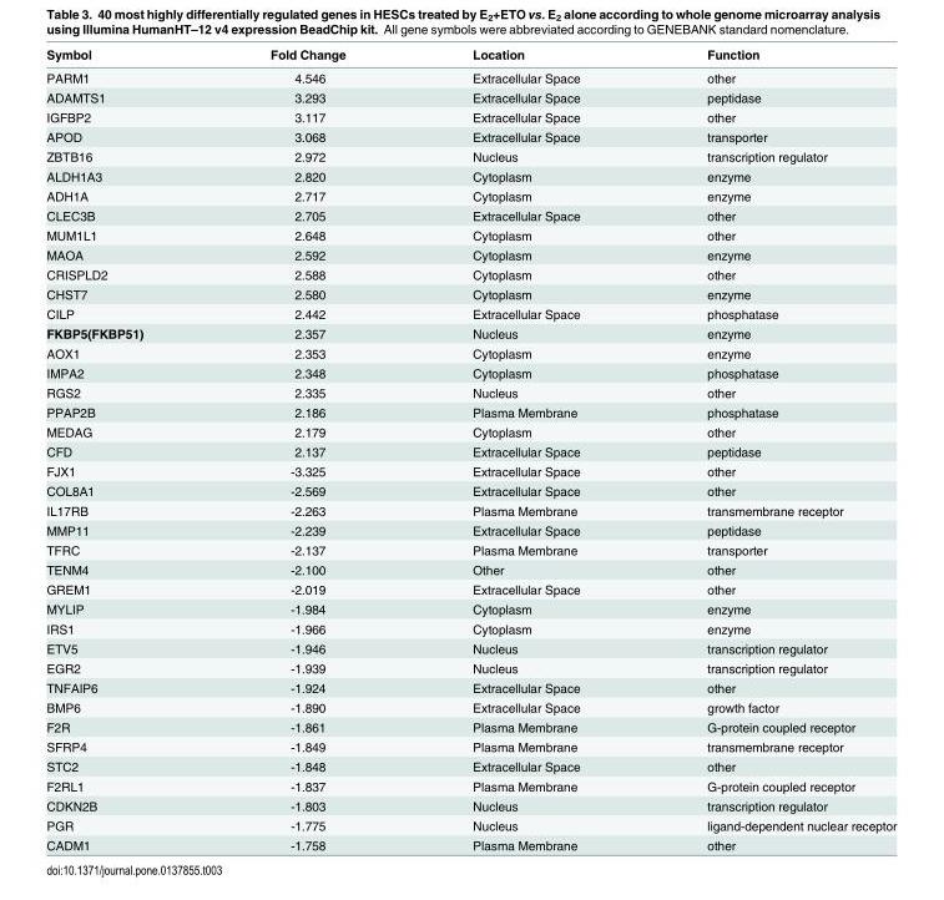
<table><thead><tr><td>Symbol</td><td>Fold Change</td><td>Location</td><td>Function</td></tr></thead><tbody><tr><td>PARM1</td><td>4.546</td><td>Extracellular Space</td><td>other</td></tr><tr><td>ADAMTS1</td><td>3.293</td><td>Extracellular Space</td><td>peptidase</td></tr><tr><td>IGFBP2</td><td>3.117</td><td>Extracellular Space</td><td>other</td></tr><tr><td>APOD</td><td>3.068</td><td>Extracellular Space</td><td>transporter</td></tr><tr><td>ZBTB16</td><td>2.972</td><td>Nucleus</td><td>transcription regulator</td></tr><tr><td>ALDH1A3</td><td>2.820</td><td>Cytoplasm</td><td>enzyme</td></tr><tr><td>ADH1A</td><td>2.717</td><td>Cytoplasm</td><td>enzyme</td></tr><tr><td>CLEC3B</td><td>2.705</td><td>Extracellular Space</td><td>other</td></tr><tr><td>MUM1L1</td><td>2.648</td><td>Cytoplasm</td><td>other</td></tr><tr><td>MAOA</td><td>2.592</td><td>Cytoplasm</td><td>enzyme</td></tr><tr><td>CRISPLD2</td><td>2.588</td><td>Cytoplasm</td><td>other</td></tr><tr><td>CHST7</td><td>2.580</td><td>Cytoplasm</td><td>enzyme</td></tr><tr><td>CILP</td><td>2.442</td><td>Extracellular Space</td><td>phosphatase</td></tr><tr><td>FKBP5(FKBP51)</td><td>2.357</td><td>Nucleus</td><td>enzyme</td></tr><tr><td>AOX1</td><td>2.353</td><td>Cytoplasm</td><td>enzyme</td></tr><tr><td>IMPA2</td><td>2.348</td><td>Cytoplasm</td><td>phosphatase</td></tr><tr><td>RGS2</td><td>2.335</td><td>Nucleus</td><td>other</td></tr><tr><td>PPAP2B</td><td>2.186</td><td>Plasma Membrane</td><td>phosphatase</td></tr><tr><td>MEDAG</td><td>2.179</td><td>Cytoplasm</td><td>other</td></tr><tr><td>CFD</td><td>2.137</td><td>Extracellular Space</td><td>peptidase</td></tr><tr><td>FJX1</td><td>-3.325</td><td>Extracellular Space</td><td>other</td></tr><tr><td>COL8A1</td><td>-2.569</td><td>Extracellular Space</td><td>other</td></tr><tr><td>IL17RB</td><td>-2.263</td><td>Plasma Membrane</td><td>transmembrane receptor</td></tr><tr><td>MMP11</td><td>-2.239</td><td>Extracellular Space</td><td>peptidase</td></tr><tr><td>TFRC</td><td>-2.137</td><td>Plasma Membrane</td><td>transporter</td></tr><tr><td>TENM4</td><td>-2.100</td><td>Other</td><td>other</td></tr><tr><td>GREM1</td><td>-2.019</td><td>Extracellular Space</td><td>other</td></tr><tr><td>MYLIP</td><td>-1.984</td><td>Cytoplasm</td><td>enzyme</td></tr><tr><td>IRS1</td><td>-1.966</td><td>Cytoplasm</td><td>enzyme</td></tr><tr><td>ETV5</td><td>-1.946</td><td>Nucleus</td><td>transcription regulator</td></tr><tr><td>EGR2</td><td>-1.939</td><td>Nucleus</td><td>transcription regulator</td></tr><tr><td>TNFAIP6</td><td>-1.924</td><td>Extracellular Space</td><td>other</td></tr><tr><td>BMP6</td><td>-1.890</td><td>Extracellular Space</td><td>growth factor</td></tr><tr><td>F2R</td><td>-1.861</td><td>Plasma Membrane</td><td>G-protein coupled receptor</td></tr><tr><td>SFRP4</td><td>-1.849</td><td>Plasma Membrane</td><td>transmembrane receptor</td></tr><tr><td>STC2</td><td>-1.848</td><td>Extracellular Space</td><td>other</td></tr><tr><td>F2RL1</td><td>-1.837</td><td>Plasma Membrane</td><td>G-protein coupled receptor</td></tr><tr><td>CDKN2B</td><td>-1.803</td><td>Nucleus</td><td>transcription regulator</td></tr><tr><td>PGR</td><td>-1.775</td><td>Nucleus</td><td>ligand-dependent nuclear receptor</td></tr><tr><td>CADM1</td><td>-1.758</td><td>Plasma Membrane</td><td>other</td></tr></tbody></table>